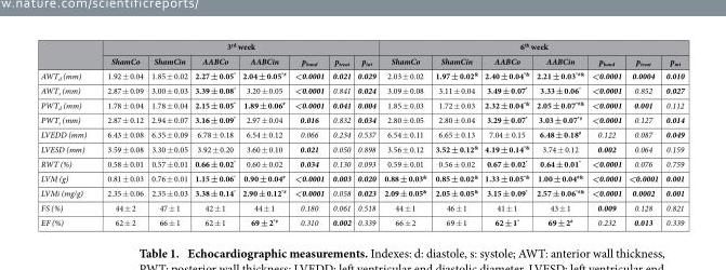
<table><thead><tr><td rowspan="2"></td><td colspan="7">3<sup>rd</sup> week</td><td colspan="7">6<sup>th</sup> week</td></tr><tr><td>ShamCo</td><td>ShamCin</td><td>AABCo</td><td>AABCin</td><td>p<sub>band</sub></td><td>p<sub>treat</sub></td><td>p<sub>int</sub></td><td>ShamCo</td><td>ShamCin</td><td>AABCo</td><td>AABCin</td><td>p<sub>band</sub></td><td>p<sub>treat</sub></td><td>p<sub>int</sub></td></tr></thead><tbody><tr><td>AWT<sub>d</sub> (mm)</td><td>1.92 ± 0.04</td><td>1.85 ± 0.02</td><td>2.27 ± 0.05*</td><td>2.04 ± 0.05*#</td><td>&lt;0.0001</td><td>0.021</td><td>0.029</td><td>2.03 ± 0.02</td><td>1.97 ± 0.02&amp;</td><td>2.40 ± 0.04*&amp;</td><td>2.21 ± 0.03*#&amp;</td><td>&lt;0.0001</td><td>0.0004</td><td>0.010</td></tr><tr><td>AWT<sub>s</sub> (mm)</td><td>2.87 ± 0.09</td><td>3.00 ± 0.03</td><td>3.39 ± 0.08*</td><td>3.20 ± 0.05</td><td>&lt;0.0001</td><td>0.841</td><td>0.024</td><td>3.09 ± 0.08</td><td>3.11 ± 0.04</td><td>3.49 ± 0.07*</td><td>3.33 ± 0.06*</td><td>&lt;0.0001</td><td>0.852</td><td>0.027</td></tr><tr><td>PWT<sub>d</sub> (mm)</td><td>1.78 ± 0.04</td><td>1.78 ± 0.04</td><td>2.15 ± 0.05*</td><td>1.89 ± 0.06#</td><td>&lt;0.0001</td><td>0.041</td><td>0.004</td><td>1.85 ± 0.03</td><td>1.72 ± 0.03</td><td>2.32 ± 0.04*&amp;</td><td>2.05 ± 0.07*#&amp;</td><td>&lt;0.0001</td><td>0.001</td><td>0.112</td></tr><tr><td>PWT<sub>s</sub> (mm)</td><td>2.87 ± 0.12</td><td>2.94 ± 0.07</td><td>3.16 ± 0.09*</td><td>2.97 ± 0.04</td><td>0.016</td><td>0.832</td><td>0.034</td><td>2.80 ± 0.05</td><td>2.80 ± 0.04</td><td>3.29 ± 0.07*</td><td>3.03 ± 0.07*#</td><td>&lt;0.0001</td><td>0.127</td><td>0.014</td></tr><tr><td>LVEDD (mm)</td><td>6.43 ± 0.08</td><td>6.35 ± 0.09</td><td>6.78 ± 0.18</td><td>6.54 ± 0.12</td><td>0.066</td><td>0.234</td><td>0.537</td><td>6.54 ± 0.11</td><td>6.65 ± 0.13</td><td>7.04 ± 0.15</td><td>6.48 ± 0.18#</td><td>0.122</td><td>0.087</td><td>0.049</td></tr><tr><td>LVESD (mm)</td><td>3.59 ± 0.08</td><td>3.30 ± 0.05</td><td>3.92 ± 0.20</td><td>3.60 ± 0.10</td><td>0.021</td><td>0.050</td><td>0.898</td><td>3.56 ± 0.12</td><td>3.52 ± 0.12&amp;</td><td>4.19 ± 0.14*<sup>&amp;</sup></td><td>3.74 ± 0.12</td><td>0.002</td><td>0.064</td><td>0.159</td></tr><tr><td>RWT (%)</td><td>0.58 ± 0.01</td><td>0.57 ± 0.01</td><td>0.66 ± 0.02*</td><td>0.60 ± 0.02</td><td>0.034</td><td>0.130</td><td>0.093</td><td>0.59 ± 0.01</td><td>0.56 ± 0.02</td><td>0.67 ± 0.02*</td><td>0.64 ± 0.01*</td><td>&lt;0.0001</td><td>0.076</td><td>0.759</td></tr><tr><td>LVM (g)</td><td>0.81 ± 0.03</td><td>0.76 ± 0.01</td><td>1.15 ± 0.06*</td><td>0.90 ± 0.04#</td><td>&lt;0.0001</td><td>0.003</td><td>0.020</td><td>0.88 ± 0.03&amp;</td><td>0.85 ± 0.02&amp;</td><td>1.33 ± 0.05*&amp;</td><td>1.00 ± 0.04#<sup>&amp;</sup></td><td>&lt;0.0001</td><td>&lt;0.0001</td><td>0.001</td></tr><tr><td>LVMi (mg/g)</td><td>2.35 ± 0.06</td><td>2.35 ± 0.03</td><td>3.38 ± 0.14*</td><td>2.90 ± 0.12*#</td><td>&lt;0.0001</td><td>0.058</td><td>0.023</td><td>2.09 ± 0.05&amp;</td><td>2.05 ± 0.05&amp;</td><td>3.15 ± 0.09*</td><td>2.57 ± 0.06*#&amp;</td><td>&lt;0.0001</td><td>0.0002</td><td>0.001</td></tr><tr><td>FS (%)</td><td>44 ± 2</td><td>47 ± 1</td><td>42 ± 1</td><td>44 ± 1</td><td>0.180</td><td>0.061</td><td>0.518</td><td>44 ± 1</td><td>46 ± 1</td><td>41 ± 1</td><td>43 ± 1</td><td>0.009</td><td>0.128</td><td>0.821</td></tr><tr><td>EF (%)</td><td>62 ± 2</td><td>66 ± 1</td><td>62 ± 1</td><td>69 ± 2*#</td><td>0.310</td><td>0.002</td><td>0.339</td><td>66 ± 2</td><td>69 ± 1</td><td>62 ± 1*</td><td>69 ± 2#</td><td>0.232</td><td>0.013</td><td>0.339</td></tr></tbody></table>